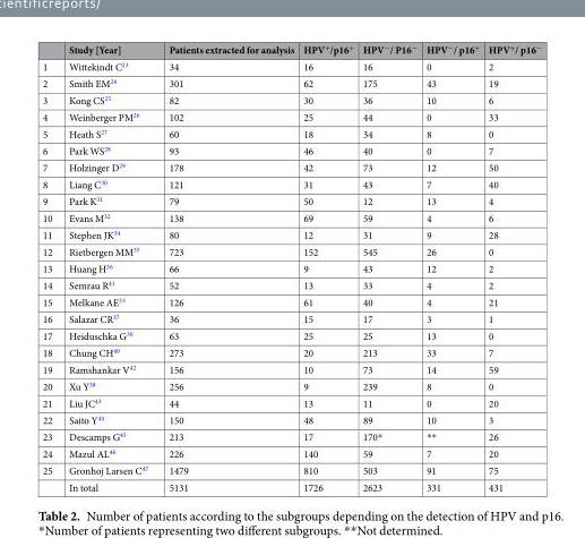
<table><thead><tr><td></td><td>Study [Year]</td><td>Patients extracted for analysis</td><td>HPV<sup>+</sup>/p16<sup>+</sup></td><td>HPV<sup>−</sup>/ P16<sup>−</sup></td><td>HPV<sup>−</sup>/ p16<sup>+</sup></td><td>HPV<sup>+</sup>/ p16<sup>−</sup></td></tr></thead><tbody><tr><td>1</td><td>Wittekindt C<sup>23</sup></td><td>34</td><td>16</td><td>16</td><td>0</td><td>2</td></tr><tr><td>2</td><td>Smith EM<sup>24</sup></td><td>301</td><td>62</td><td>175</td><td>43</td><td>19</td></tr><tr><td>3</td><td>Kong CS<sup>25</sup></td><td>82</td><td>30</td><td>36</td><td>10</td><td>6</td></tr><tr><td>4</td><td>Weinberger PM<sup>26</sup></td><td>102</td><td>25</td><td>44</td><td>0</td><td>33</td></tr><tr><td>5</td><td>Heath S<sup>27</sup></td><td>60</td><td>18</td><td>34</td><td>8</td><td>0</td></tr><tr><td>6</td><td>Park WS<sup>28</sup></td><td>93</td><td>46</td><td>40</td><td>0</td><td>7</td></tr><tr><td>7</td><td>Holzinger D<sup>29</sup></td><td>178</td><td>42</td><td>73</td><td>12</td><td>50</td></tr><tr><td>8</td><td>Liang C<sup>30</sup></td><td>121</td><td>31</td><td>43</td><td>7</td><td>40</td></tr><tr><td>9</td><td>Park K<sup>31</sup></td><td>79</td><td>50</td><td>12</td><td>13</td><td>4</td></tr><tr><td>10</td><td>Evans M<sup>32</sup></td><td>138</td><td>69</td><td>59</td><td>4</td><td>6</td></tr><tr><td>11</td><td>Stephen JK<sup>34</sup></td><td>80</td><td>12</td><td>31</td><td>9</td><td>28</td></tr><tr><td>12</td><td>Rietbergen MM<sup>35</sup></td><td>723</td><td>152</td><td>545</td><td>26</td><td>0</td></tr><tr><td>13</td><td>Huang H<sup>36</sup></td><td>66</td><td>9</td><td>43</td><td>12</td><td>2</td></tr><tr><td>14</td><td>Semrau R<sup>41</sup></td><td>52</td><td>13</td><td>33</td><td>4</td><td>2</td></tr><tr><td>15</td><td>Melkane AE<sup>33</sup></td><td>126</td><td>61</td><td>40</td><td>4</td><td>21</td></tr><tr><td>16</td><td>Salazar CR<sup>37</sup></td><td>36</td><td>15</td><td>17</td><td>3</td><td>1</td></tr><tr><td>17</td><td>Heiduschka G<sup>39</sup></td><td>63</td><td>25</td><td>25</td><td>13</td><td>0</td></tr><tr><td>18</td><td>Chung CH<sup>40</sup></td><td>273</td><td>20</td><td>213</td><td>33</td><td>7</td></tr><tr><td>19</td><td>Ramshankar V<sup>42</sup></td><td>156</td><td>10</td><td>73</td><td>14</td><td>59</td></tr><tr><td>20</td><td>Xu Y<sup>38</sup></td><td>256</td><td>9</td><td>239</td><td>8</td><td>0</td></tr><tr><td>21</td><td>Liu JC<sup>43</sup></td><td>44</td><td>13</td><td>11</td><td>0</td><td>20</td></tr><tr><td>22</td><td>Saito Y<sup>44</sup></td><td>150</td><td>48</td><td>89</td><td>10</td><td>3</td></tr><tr><td>23</td><td>Descamps G<sup>45</sup></td><td>213</td><td>17</td><td>170*</td><td>**</td><td>26</td></tr><tr><td>24</td><td>Mazul AL<sup>46</sup></td><td>226</td><td>140</td><td>59</td><td>7</td><td>20</td></tr><tr><td rowspan="2">25</td><td>Gronhoj Larsen C<sup>47</sup></td><td>1479</td><td>810</td><td>503</td><td>91</td><td>75</td></tr><tr><td>In total</td><td>5131</td><td>1726</td><td>2623</td><td>331</td><td>431</td></tr></tbody></table>